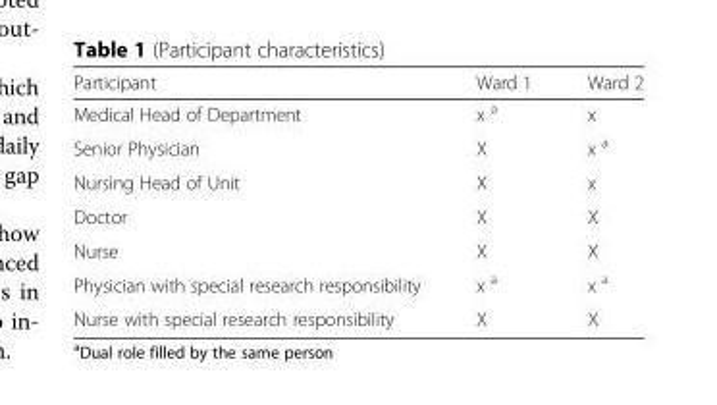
<table><thead><tr><td>Participant</td><td>Ward 1</td><td>Ward 2</td></tr></thead><tbody><tr><td>Medical Head of Department</td><td>x <sup>a</sup></td><td>x</td></tr><tr><td>Senior Physician</td><td>X</td><td>x <sup>a</sup></td></tr><tr><td>Nursing Head of Unit</td><td>X</td><td>x</td></tr><tr><td>Doctor</td><td>X</td><td>X</td></tr><tr><td>Nurse</td><td>X</td><td>X</td></tr><tr><td>Physician with special research responsibility</td><td>x <sup>a</sup></td><td>x <sup>a</sup></td></tr><tr><td>Nurse with special research responsibility</td><td>X</td><td>X</td></tr></tbody></table>